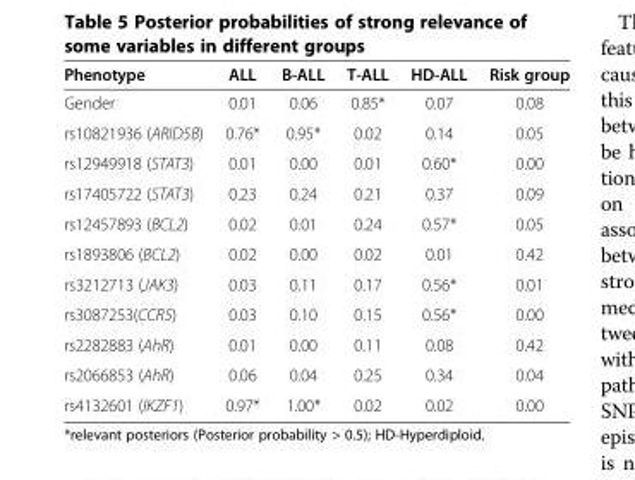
<table><thead><tr><td>Phenotype</td><td>ALL</td><td>B-ALL</td><td>T-ALL</td><td>HD-ALL</td><td>Risk group</td></tr></thead><tbody><tr><td>Gender</td><td>0.01</td><td>0.06</td><td>0.85*</td><td>0.07</td><td>0.08</td></tr><tr><td>rs10821936 (ARID5B)</td><td>0.76*</td><td>0.95*</td><td>0.02</td><td>0.14</td><td>0.05</td></tr><tr><td>rs12949918 (STAT3)</td><td>0.01</td><td>0.00</td><td>0.01</td><td>0.60*</td><td>0.00</td></tr><tr><td>rs17405722 (STAT3)</td><td>0.23</td><td>0.24</td><td>0.21</td><td>0.37</td><td>0.09</td></tr><tr><td>rs12457893 (BCL2)</td><td>0.02</td><td>0.01</td><td>0.24</td><td>0.57*</td><td>0.05</td></tr><tr><td>rs1893806 (BCL2)</td><td>0.02</td><td>0.00</td><td>0.02</td><td>0.01</td><td>0.42</td></tr><tr><td>rs3212713 (JAK3)</td><td>0.03</td><td>0.11</td><td>0.17</td><td>0.56*</td><td>0.01</td></tr><tr><td>rs3087253(CCR5)</td><td>0.03</td><td>0.10</td><td>0.15</td><td>0.56*</td><td>0.00</td></tr><tr><td>rs2282883 (AhR)</td><td>0.01</td><td>0.00</td><td>0.11</td><td>0.08</td><td>0.42</td></tr><tr><td>rs2066853 (AhR)</td><td>0.06</td><td>0.04</td><td>0.25</td><td>0.34</td><td>0.04</td></tr><tr><td>rs4132601 (IKZF1)</td><td>0.97*</td><td>1.00*</td><td>0.02</td><td>0.02</td><td>0.00</td></tr></tbody></table>